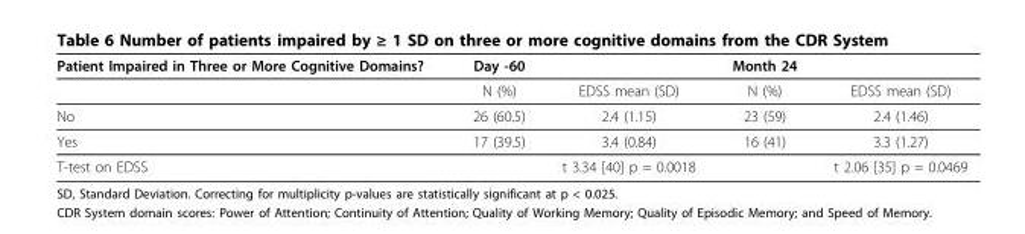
<table><thead><tr><td>Patient Impaired in Three or More Cognitive Domains?</td><td>Day -60</td><td></td><td>Month 24</td><td></td></tr></thead><tbody><tr><td></td><td>N (%)</td><td>EDSS mean (SD)</td><td>N (%)</td><td>EDSS mean (SD)</td></tr><tr><td>No</td><td>26 (60.5)</td><td>2.4 (1.15)</td><td>23 (59)</td><td>2.4 (1.46)</td></tr><tr><td>Yes</td><td>17 (39.5)</td><td>3.4 (0.84)</td><td>16 (41)</td><td>3.3 (1.27)</td></tr><tr><td>T-test on EDSS</td><td></td><td>t 3.34 [40] p = 0.0018</td><td></td><td>t 2.06 [35] p = 0.0469</td></tr></tbody></table>